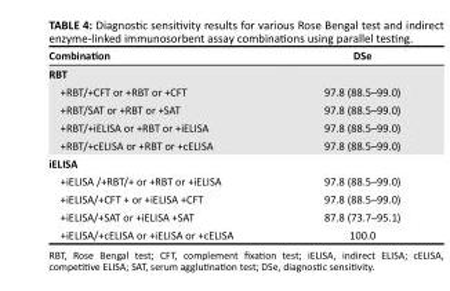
<table><thead><tr><td>Combination</td><td>DSe</td></tr></thead><tbody><tr><td colspan="2">RBT</td></tr><tr><td>+RBT/+CFT or +RBT or +CFT</td><td>97.8 (88.5–99.0)</td></tr><tr><td>+RBT/SAT or +RBT or +SAT</td><td>97.8 (88.5–99.0)</td></tr><tr><td>+RBT/+iELISA or +RBT or +iELISA</td><td>97.8 (88.5–99.0)</td></tr><tr><td>+RBT/+cELISA or +RBT or +cELISA</td><td>97.8 (88.5–99.0)</td></tr><tr><td colspan="2">iELISA</td></tr><tr><td>+iELISA /+RBT/+ or +RBT or +iELISA</td><td>97.8 (88.5–99.0)</td></tr><tr><td>+iELISA/+CFT + or +iELISA +CFT</td><td>97.8 (88.5–99.0)</td></tr><tr><td>+iELISA/+SAT or +iELISA +SAT</td><td>87.8 (73.7–95.1)</td></tr><tr><td>+iELISA/+cELISA or +iELISA or +cELISA</td><td>100.0</td></tr></tbody></table>